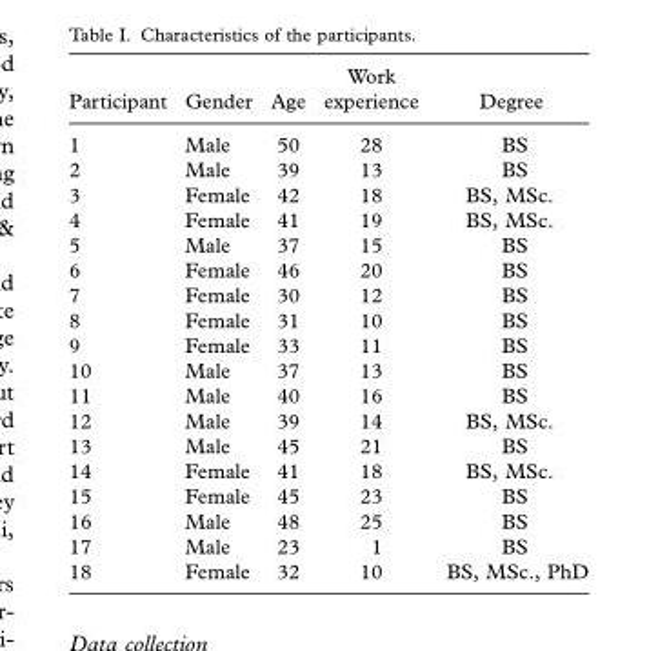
<table><thead><tr><td>Participant</td><td>Gender</td><td>Age</td><td>Work experience</td><td>Degree</td></tr></thead><tbody><tr><td>1</td><td>Male</td><td>50</td><td>28</td><td>BS</td></tr><tr><td>2</td><td>Male</td><td>39</td><td>13</td><td>BS</td></tr><tr><td>3</td><td>Female</td><td>42</td><td>18</td><td>BS, MSc.</td></tr><tr><td>4</td><td>Female</td><td>41</td><td>19</td><td>BS, MSc.</td></tr><tr><td>5</td><td>Male</td><td>37</td><td>15</td><td>BS</td></tr><tr><td>6</td><td>Female</td><td>46</td><td>20</td><td>BS</td></tr><tr><td>7</td><td>Female</td><td>30</td><td>12</td><td>BS</td></tr><tr><td>8</td><td>Female</td><td>31</td><td>10</td><td>BS</td></tr><tr><td>9</td><td>Female</td><td>33</td><td>11</td><td>BS</td></tr><tr><td>10</td><td>Male</td><td>37</td><td>13</td><td>BS</td></tr><tr><td>11</td><td>Male</td><td>40</td><td>16</td><td>BS</td></tr><tr><td>12</td><td>Male</td><td>39</td><td>14</td><td>BS, MSc.</td></tr><tr><td>13</td><td>Male</td><td>45</td><td>21</td><td>BS</td></tr><tr><td>14</td><td>Female</td><td>41</td><td>18</td><td>BS, MSc.</td></tr><tr><td>15</td><td>Female</td><td>45</td><td>23</td><td>BS</td></tr><tr><td>16</td><td>Male</td><td>48</td><td>25</td><td>BS</td></tr><tr><td>17</td><td>Male</td><td>23</td><td>1</td><td>BS</td></tr><tr><td>18</td><td>Female</td><td>32</td><td>10</td><td>BS, MSc., PhD</td></tr></tbody></table>